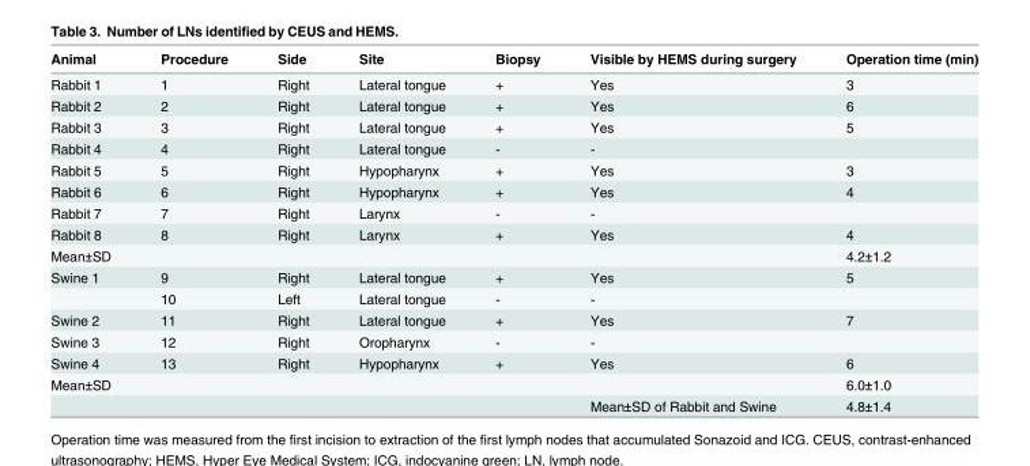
<table><thead><tr><td>Animal</td><td>Procedure</td><td>Side</td><td>Site</td><td>Biopsy</td><td>Visible by HEMS during surgery</td><td>Operation time (min)</td></tr></thead><tbody><tr><td>Rabbit 1</td><td>1</td><td>Right</td><td>Lateral tongue</td><td>+</td><td>Yes</td><td>3</td></tr><tr><td>Rabbit 2</td><td>2</td><td>Right</td><td>Lateral tongue</td><td>+</td><td>Yes</td><td>6</td></tr><tr><td>Rabbit 3</td><td>3</td><td>Right</td><td>Lateral tongue</td><td>+</td><td>Yes</td><td>5</td></tr><tr><td>Rabbit 4</td><td>4</td><td>Right</td><td>Lateral tongue</td><td>-</td><td>-</td><td></td></tr><tr><td>Rabbit 5</td><td>5</td><td>Right</td><td>Hypopharynx</td><td>+</td><td>Yes</td><td>3</td></tr><tr><td>Rabbit 6</td><td>6</td><td>Right</td><td>Hypopharynx</td><td>+</td><td>Yes</td><td>4</td></tr><tr><td>Rabbit 7</td><td>7</td><td>Right</td><td>Larynx</td><td>-</td><td>-</td><td></td></tr><tr><td>Rabbit 8</td><td>8</td><td>Right</td><td>Larynx</td><td>+</td><td>Yes</td><td>4</td></tr><tr><td>Mean±SD</td><td></td><td></td><td></td><td></td><td></td><td>4.2±1.2</td></tr><tr><td rowspan="2">Swine 1</td><td>9</td><td>Right</td><td>Lateral tongue</td><td>+</td><td>Yes</td><td>5</td></tr><tr><td>10</td><td>Left</td><td>Lateral tongue</td><td>-</td><td>-</td><td></td></tr><tr><td>Swine 2</td><td>11</td><td>Right</td><td>Lateral tongue</td><td>+</td><td>Yes</td><td>7</td></tr><tr><td>Swine 3</td><td>12</td><td>Right</td><td>Oropharynx</td><td>-</td><td>-</td><td></td></tr><tr><td>Swine 4</td><td>13</td><td>Right</td><td>Hypopharynx</td><td>+</td><td>Yes</td><td>6</td></tr><tr><td rowspan="2">Mean±SD</td><td></td><td></td><td></td><td></td><td></td><td>6.0±1.0</td></tr><tr><td></td><td></td><td></td><td></td><td>Mean±SD of Rabbit and Swine</td><td>4.8±1.4</td></tr></tbody></table>